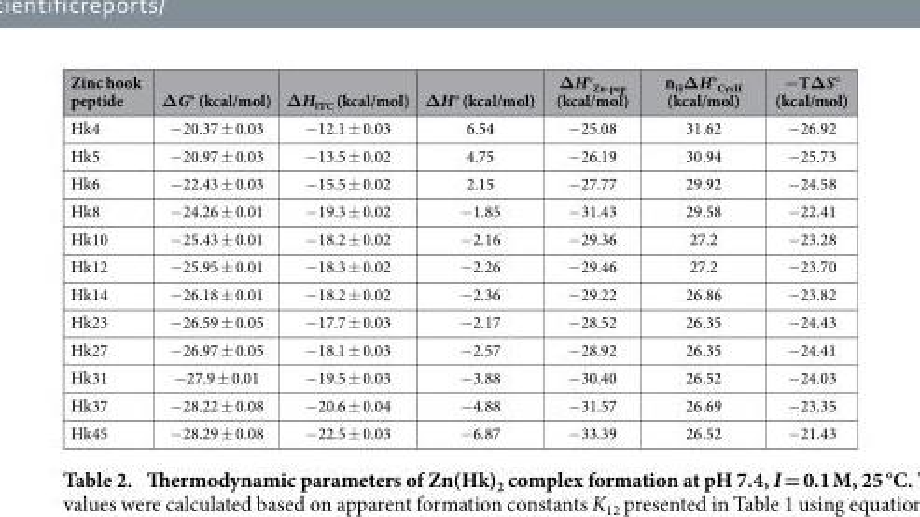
<table><thead><tr><td>Zinc hook peptide</td><td>ΔG° (kcal/mol)</td><td>ΔH<sub>ITC</sub> (kcal/mol)</td><td>ΔH° (kcal/mol)</td><td>ΔH°<sub>Zn-pep</sub> (kcal/mol)</td><td>n<sub>H</sub>ΔH°<sub>CysH</sub> (kcal/mol)</td><td>−TΔS° (kcal/mol)</td></tr></thead><tbody><tr><td>Hk4</td><td>− 20.37 ± 0.03</td><td>− 12.1 ± 0.03</td><td>6.54</td><td>− 25.08</td><td>31.62</td><td>− 26.92</td></tr><tr><td>Hk5</td><td>− 20.97 ± 0.03</td><td>− 13.5 ± 0.02</td><td>4.75</td><td>− 26.19</td><td>30.94</td><td>− 25.73</td></tr><tr><td>Hk6</td><td>− 22.43 ± 0.03</td><td>− 15.5 ± 0.02</td><td>2.15</td><td>− 27.77</td><td>29.92</td><td>− 24.58</td></tr><tr><td>Hk8</td><td>− 24.26 ± 0.01</td><td>− 19.3 ± 0.02</td><td>− 1.85</td><td>− 31.43</td><td>29.58</td><td>− 22.41</td></tr><tr><td>Hk10</td><td>− 25.43 ± 0.01</td><td>− 18.2 ± 0.02</td><td>− 2.16</td><td>− 29.36</td><td>27.2</td><td>− 23.28</td></tr><tr><td>Hk12</td><td>− 25.95 ± 0.01</td><td>− 18.3 ± 0.02</td><td>− 2.26</td><td>− 29.46</td><td>27.2</td><td>− 23.70</td></tr><tr><td>Hk14</td><td>− 26.18 ± 0.01</td><td>− 18.2 ± 0.02</td><td>− 2.36</td><td>− 29.22</td><td>26.86</td><td>− 23.82</td></tr><tr><td>Hk23</td><td>− 26.59 ± 0.05</td><td>− 17.7 ± 0.03</td><td>− 2.17</td><td>− 28.52</td><td>26.35</td><td>− 24.43</td></tr><tr><td>Hk27</td><td>− 26.97 ± 0.05</td><td>− 18.1 ± 0.03</td><td>− 2.57</td><td>− 28.92</td><td>26.35</td><td>− 24.41</td></tr><tr><td>Hk31</td><td>− 27.9 ± 0.01</td><td>− 19.5 ± 0.03</td><td>− 3.88</td><td>− 30.40</td><td>26.52</td><td>− 24.03</td></tr><tr><td>Hk37</td><td>− 28.22 ± 0.08</td><td>− 20.6 ± 0.04</td><td>− 4.88</td><td>− 31.57</td><td>26.69</td><td>− 23.35</td></tr><tr><td>Hk45</td><td>− 28.29 ± 0.08</td><td>− 22.5 ± 0.03</td><td>− 6.87</td><td>− 33.39</td><td>26.52</td><td>− 21.43</td></tr></tbody></table>